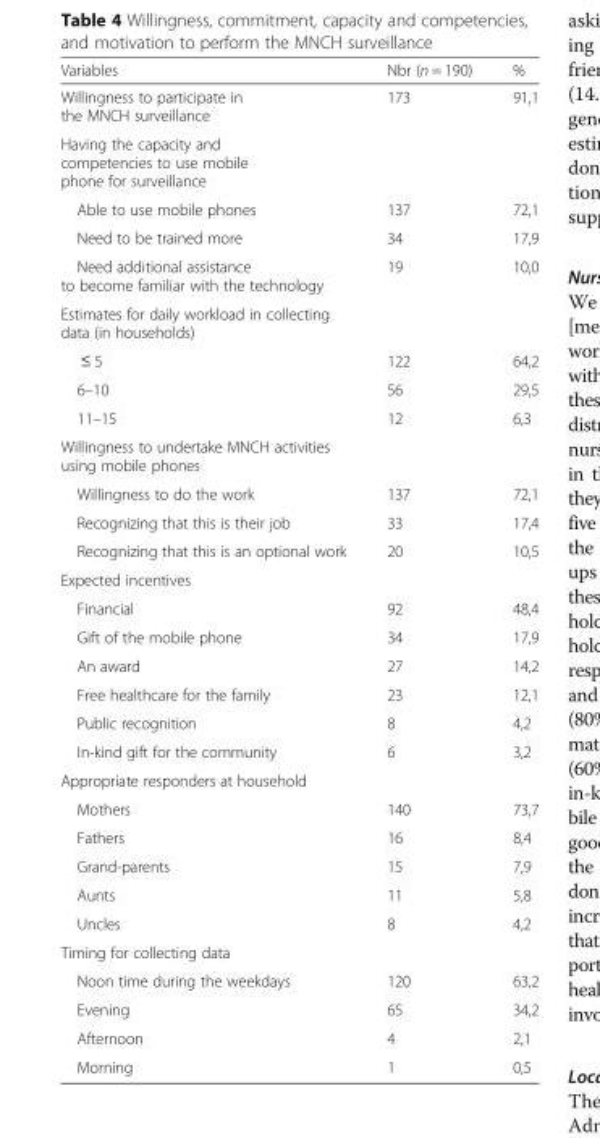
<table><thead><tr><td>Variables</td><td>Nbr (n = 190)</td><td>%</td></tr></thead><tbody><tr><td>Willingness to participate in the MNCH surveillance</td><td>173</td><td>91,1</td></tr><tr><td colspan="3">Having the capacity and competencies to use mobile phone for surveillance</td></tr><tr><td>Able to use mobile phones</td><td>137</td><td>72,1</td></tr><tr><td>Need to be trained more</td><td>34</td><td>17,9</td></tr><tr><td>Need additional assistance to become familiar with the technology</td><td>19</td><td>10,0</td></tr><tr><td colspan="3">Estimates for daily workload in collecting data (in households)</td></tr><tr><td>≤ 5</td><td>122</td><td>64,2</td></tr><tr><td>6–10</td><td>56</td><td>29,5</td></tr><tr><td>11–15</td><td>12</td><td>6,3</td></tr><tr><td colspan="3">Willingness to undertake MNCH activities using mobile phones</td></tr><tr><td>Willingness to do the work</td><td>137</td><td>72,1</td></tr><tr><td>Recognizing that this is their job</td><td>33</td><td>17,4</td></tr><tr><td>Recognizing that this is an optional work</td><td>20</td><td>10,5</td></tr><tr><td colspan="3">Expected incentives</td></tr><tr><td>Financial</td><td>92</td><td>48,4</td></tr><tr><td>Gift of the mobile phone</td><td>34</td><td>17,9</td></tr><tr><td>An award</td><td>27</td><td>14,2</td></tr><tr><td>Free healthcare for the family</td><td>23</td><td>12,1</td></tr><tr><td>Public recognition</td><td>8</td><td>4,2</td></tr><tr><td>In-kind gift for the community</td><td>6</td><td>3,2</td></tr><tr><td colspan="3">Appropriate responders at household</td></tr><tr><td>Mothers</td><td>140</td><td>73,7</td></tr><tr><td>Fathers</td><td>16</td><td>8,4</td></tr><tr><td>Grand-parents</td><td>15</td><td>7,9</td></tr><tr><td>Aunts</td><td>11</td><td>5,8</td></tr><tr><td>Uncles</td><td>8</td><td>4,2</td></tr><tr><td colspan="3">Timing for collecting data</td></tr><tr><td>Noon time during the weekdays</td><td>120</td><td>63,2</td></tr><tr><td>Evening</td><td>65</td><td>34,2</td></tr><tr><td>Afternoon</td><td>4</td><td>2,1</td></tr><tr><td>Morning</td><td>1</td><td>0,5</td></tr></tbody></table>